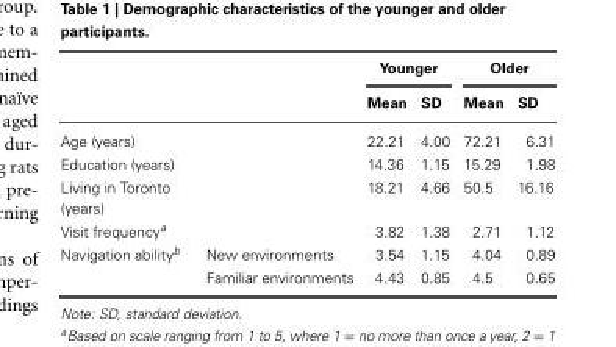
<table><thead><tr><td rowspan="2"></td><td rowspan="2"></td><td colspan="2">Younger</td><td colspan="2">Older</td></tr><tr><td>Mean</td><td>SD</td><td>Mean</td><td>SD</td></tr></thead><tbody><tr><td>Age (years)</td><td></td><td>22.21</td><td>4.00</td><td>72.21</td><td>6.31</td></tr><tr><td>Education (years)</td><td></td><td>14.36</td><td>1.15</td><td>15.29</td><td>1.98</td></tr><tr><td>Living in Toronto (years)</td><td></td><td>18.21</td><td>4.66</td><td>50.5</td><td>16.16</td></tr><tr><td>Visit frequency<sup>a</sup></td><td></td><td>3.82</td><td>1.38</td><td>2.71</td><td>1.12</td></tr><tr><td rowspan="2">Navigation ability<sup>b</sup></td><td>New environments</td><td>3.54</td><td>1.15</td><td>4.04</td><td>0.89</td></tr><tr><td>Familiar environments</td><td>4.43</td><td>0.85</td><td>4.5</td><td>0.65</td></tr></tbody></table>